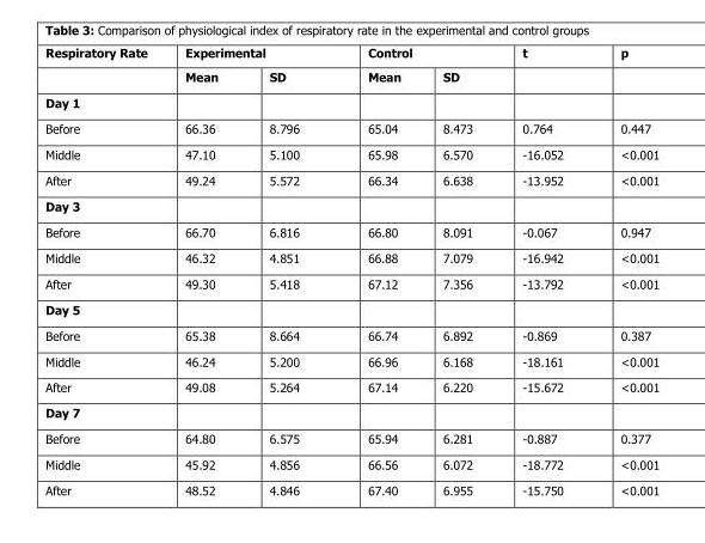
<table><thead><tr><td rowspan="2">Respiratory Rate</td><td colspan="2">Experimental</td><td colspan="2">Control</td><td rowspan="2">t</td><td rowspan="2">p</td></tr><tr><td>Mean</td><td>SD</td><td>Mean</td><td>SD</td></tr></thead><tbody><tr><td colspan="7">Day 1</td></tr><tr><td>Before</td><td>66.36</td><td>8.796</td><td>65.04</td><td>8.473</td><td>0.764</td><td>0.447</td></tr><tr><td>Middle</td><td>47.10</td><td>5.100</td><td>65.98</td><td>6.570</td><td>-16.052</td><td>&lt;0.001</td></tr><tr><td>After</td><td>49.24</td><td>5.572</td><td>66.34</td><td>6.638</td><td>-13.952</td><td>&lt;0.001</td></tr><tr><td colspan="7">Day 3</td></tr><tr><td>Before</td><td>66.70</td><td>6.816</td><td>66.80</td><td>8.091</td><td>-0.067</td><td>0.947</td></tr><tr><td>Middle</td><td>46.32</td><td>4.851</td><td>66.88</td><td>7.079</td><td>-16.942</td><td>&lt;0.001</td></tr><tr><td>After</td><td>49.30</td><td>5.418</td><td>67.12</td><td>7.356</td><td>-13.792</td><td>&lt;0.001</td></tr><tr><td colspan="7">Day 5</td></tr><tr><td>Before</td><td>65.38</td><td>8.664</td><td>66.74</td><td>6.892</td><td>-0.869</td><td>0.387</td></tr><tr><td>Middle</td><td>46.24</td><td>5.200</td><td>66.96</td><td>6.168</td><td>-18.161</td><td>&lt;0.001</td></tr><tr><td>After</td><td>49.08</td><td>5.264</td><td>67.14</td><td>6.220</td><td>-15.672</td><td>&lt;0.001</td></tr><tr><td colspan="7">Day 7</td></tr><tr><td>Before</td><td>64.80</td><td>6.575</td><td>65.94</td><td>6.281</td><td>-0.887</td><td>0.377</td></tr><tr><td>Middle</td><td>45.92</td><td>4.856</td><td>66.56</td><td>6.072</td><td>-18.772</td><td>&lt;0.001</td></tr><tr><td>After</td><td>48.52</td><td>4.846</td><td>67.40</td><td>6.955</td><td>-15.750</td><td>&lt;0.001</td></tr></tbody></table>